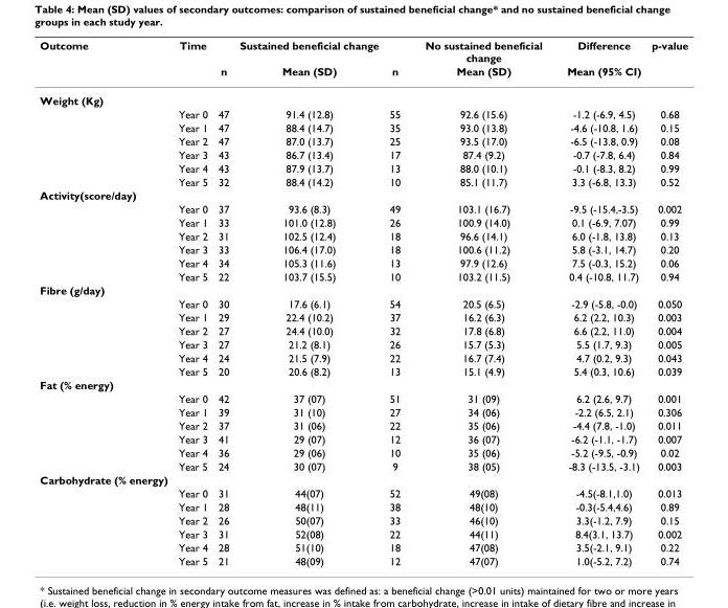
<table><thead><tr><td rowspan="2">Outcome</td><td rowspan="2">Time</td><td rowspan="2">n</td><td rowspan="2">Sustained beneficial change Mean (SD)</td><td rowspan="2">n</td><td rowspan="2">No sustained beneficial change Mean (SD)</td><td rowspan="2">Difference Mean (95% CI)</td><td rowspan="2">p-value</td></tr><tr></tr></thead><tbody><tr><td colspan="8">Weight (Kg)</td></tr><tr><td></td><td>Year 0</td><td>47</td><td>91.4 (12.8)</td><td>55</td><td>92.6 (15.6)</td><td>-1.2 (-6.9, 4.5)</td><td>0.68</td></tr><tr><td></td><td>Year 1</td><td>47</td><td>88.4 (14.7)</td><td>35</td><td>93.0 (13.8)</td><td>-4.6 (-10.8, 1.6)</td><td>0.15</td></tr><tr><td></td><td>Year 2</td><td>47</td><td>87.0 (13.7)</td><td>25</td><td>93.5 (17.0)</td><td>-6.5 (-13.8, 0.9)</td><td>0.08</td></tr><tr><td></td><td>Year 3</td><td>43</td><td>86.7 (13.4)</td><td>17</td><td>87.4 (9.2)</td><td>-0.7 (-7.8, 6.4)</td><td>0.84</td></tr><tr><td></td><td>Year 4</td><td>43</td><td>87.9 (13.7)</td><td>13</td><td>88.0 (10.1)</td><td>-0.1 (-8.3, 8.2)</td><td>0.99</td></tr><tr><td></td><td>Year 5</td><td>32</td><td>88.4 (14.2)</td><td>10</td><td>85.1 (11.7)</td><td>3.3 (-6.8, 13.3)</td><td>0.52</td></tr><tr><td colspan="8">Activity(score/day)</td></tr><tr><td></td><td>Year 0</td><td>37</td><td>93.6 (8.3)</td><td>49</td><td>103.1 (16.7)</td><td>-9.5 (-15.4,-3.5)</td><td>0.002</td></tr><tr><td></td><td>Year 1</td><td>33</td><td>101.0 (12.8)</td><td>26</td><td>100.9 (14.0)</td><td>0.1 (-6.9, 7.07)</td><td>0.99</td></tr><tr><td></td><td>Year 2</td><td>31</td><td>102.5 (12.4)</td><td>18</td><td>96.6 (14.1)</td><td>6.0 (-1.8, 13.8)</td><td>0.13</td></tr><tr><td></td><td>Year 3</td><td>33</td><td>106.4 (17.0)</td><td>18</td><td>100.6 (11.2)</td><td>5.8 (-3.1, 14.7)</td><td>0.20</td></tr><tr><td></td><td>Year 4</td><td>34</td><td>105.3 (11.6)</td><td>13</td><td>97.9 (12.6)</td><td>7.5 (-0.3, 15.2)</td><td>0.06</td></tr><tr><td></td><td>Year 5</td><td>22</td><td>103.7 (15.5)</td><td>10</td><td>103.2 (11.5)</td><td>0.4 (-10.8, 11.7)</td><td>0.94</td></tr><tr><td colspan="8">Fibre (g/day)</td></tr><tr><td></td><td>Year 0</td><td>30</td><td>17.6 (6.1)</td><td>54</td><td>20.5 (6.5)</td><td>-2.9 (-5.8, -0.0)</td><td>0.050</td></tr><tr><td></td><td>Year 1</td><td>29</td><td>22.4 (10.2)</td><td>37</td><td>16.2 (6.3)</td><td>6.2 (2.2, 10.3)</td><td>0.003</td></tr><tr><td></td><td>Year 2</td><td>27</td><td>24.4 (10.0)</td><td>32</td><td>17.8 (6.8)</td><td>6.6 (2.2, 11.0)</td><td>0.004</td></tr><tr><td></td><td>Year 3</td><td>27</td><td>21.2 (8.1)</td><td>26</td><td>15.7 (5.3)</td><td>5.5 (1.7, 9.3)</td><td>0.005</td></tr><tr><td></td><td>Year 4</td><td>24</td><td>21.5 (7.9)</td><td>22</td><td>16.7 (7.4)</td><td>4.7 (0.2, 9.3)</td><td>0.043</td></tr><tr><td></td><td>Year 5</td><td>20</td><td>20.6 (8.2)</td><td>13</td><td>15.1 (4.9)</td><td>5.4 (0.3, 10.6)</td><td>0.039</td></tr><tr><td colspan="8">Fat (% energy)</td></tr><tr><td></td><td>Year 0</td><td>42</td><td>37 (07)</td><td>51</td><td>31 (09)</td><td>6.2 (2.6, 9.7)</td><td>0.001</td></tr><tr><td></td><td>Year 1</td><td>39</td><td>31 (10)</td><td>27</td><td>34 (06)</td><td>-2.2 (6.5, 2.1)</td><td>0.306</td></tr><tr><td></td><td>Year 2</td><td>37</td><td>31 (06)</td><td>22</td><td>35 (06)</td><td>-4.4 (7.8, -1.0)</td><td>0.011</td></tr><tr><td></td><td>Year 3</td><td>41</td><td>29 (07)</td><td>12</td><td>36 (07)</td><td>-6.2 (-1.1, -1.7)</td><td>0.007</td></tr><tr><td></td><td>Year 4</td><td>36</td><td>29 (06)</td><td>10</td><td>35 (06)</td><td>-5.2 (-9.5, -0.9)</td><td>0.02</td></tr><tr><td></td><td>Year 5</td><td>24</td><td>30 (07)</td><td>9</td><td>38 (05)</td><td>-8.3 (-13.5, -3.1)</td><td>0.003</td></tr><tr><td colspan="8">Carbohydrate (% energy)</td></tr><tr><td></td><td>Year 0</td><td>31</td><td>44(07)</td><td>52</td><td>49(08)</td><td>-4.5(-8.1,1.0)</td><td>0.013</td></tr><tr><td></td><td>Year 1</td><td>28</td><td>48(11)</td><td>38</td><td>48(10)</td><td>-0.3(-5.4,4.6)</td><td>0.89</td></tr><tr><td></td><td>Year 2</td><td>26</td><td>50(07)</td><td>33</td><td>46(10)</td><td>3.3(-1.2, 7.9)</td><td>0.15</td></tr><tr><td></td><td>Year 3</td><td>31</td><td>52(08)</td><td>22</td><td>44(11)</td><td>8.4(3.1, 13.7)</td><td>0.002</td></tr><tr><td></td><td>Year 4</td><td>28</td><td>51(10)</td><td>18</td><td>47(08)</td><td>3.5(-2.1, 9.1)</td><td>0.22</td></tr><tr><td></td><td>Year 5</td><td>21</td><td>48(09)</td><td>12</td><td>47(07)</td><td>1.0(-5.2, 7.2)</td><td>0.74</td></tr></tbody></table>